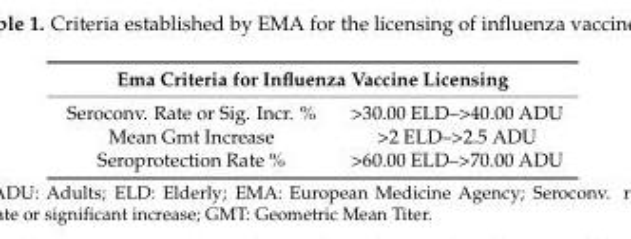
<table><thead><tr><td colspan="2">Ema Criteria for Influenza Vaccine Licensing</td></tr><tr><td>Seroconv. Rate or Sig. Incr. %</td><td>&gt;30.00 ELD–&gt;40.00 ADU</td></tr></thead><tbody><tr><td>Mean Gmt Increase</td><td>&gt;2 ELD–&gt;2.5 ADU</td></tr><tr><td>Seroprotection Rate %</td><td>&gt;60.00 ELD–&gt;70.00 ADU</td></tr></tbody></table>